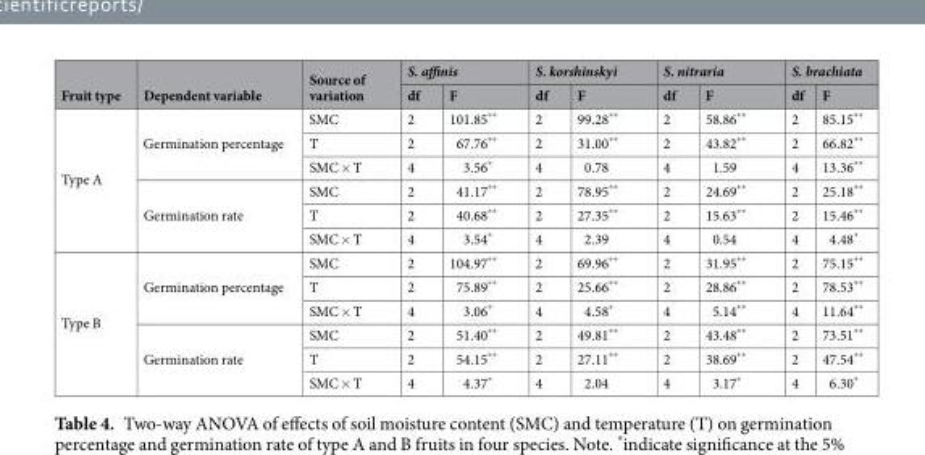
<table><thead><tr><td rowspan="2">Fruit type</td><td rowspan="2">Dependent variable</td><td rowspan="2">Source of variation</td><td colspan="2">S. affinis</td><td colspan="2">S. korshinskyi</td><td colspan="2">S. nitraria</td><td colspan="2">S. brachiata</td></tr><tr><td>df</td><td>F</td><td>df</td><td>F</td><td>df</td><td>F</td><td>df</td><td>F</td></tr></thead><tbody><tr><td rowspan="6">Type A</td><td rowspan="3">Germination percentage</td><td>SMC</td><td>2</td><td>101.85**</td><td>2</td><td>99.28**</td><td>2</td><td>58.86**</td><td>2</td><td>85.15**</td></tr><tr><td>T</td><td>2</td><td>67.76**</td><td>2</td><td>31.00**</td><td>2</td><td>43.82**</td><td>2</td><td>66.82**</td></tr><tr><td>SMC × T</td><td>4</td><td>3.56*</td><td>4</td><td>0.78</td><td>4</td><td>1.59</td><td>4</td><td>13.36**</td></tr><tr><td rowspan="3">Germination rate</td><td>SMC</td><td>2</td><td>41.17**</td><td>2</td><td>78.95**</td><td>2</td><td>24.69**</td><td>2</td><td>25.18**</td></tr><tr><td>T</td><td>2</td><td>40.68**</td><td>2</td><td>27.35**</td><td>2</td><td>15.63**</td><td>2</td><td>15.46**</td></tr><tr><td>SMC × T</td><td>4</td><td>3.54*</td><td>4</td><td>2.39</td><td>4</td><td>0.54</td><td>4</td><td>4.48*</td></tr><tr><td rowspan="6">Type B</td><td rowspan="3">Germination percentage</td><td>SMC</td><td>2</td><td>104.97**</td><td>2</td><td>69.96**</td><td>2</td><td>31.95**</td><td>2</td><td>75.15**</td></tr><tr><td>T</td><td>2</td><td>75.89**</td><td>2</td><td>25.66**</td><td>2</td><td>28.86**</td><td>2</td><td>78.53**</td></tr><tr><td>SMC × T</td><td>4</td><td>3.06*</td><td>4</td><td>4.58*</td><td>4</td><td>5.14**</td><td>4</td><td>11.64**</td></tr><tr><td rowspan="3">Germination rate</td><td>SMC</td><td>2</td><td>51.40**</td><td>2</td><td>49.81**</td><td>2</td><td>43.48**</td><td>2</td><td>73.51**</td></tr><tr><td>T</td><td>2</td><td>54.15**</td><td>2</td><td>27.11**</td><td>2</td><td>38.69**</td><td>2</td><td>47.54**</td></tr><tr><td>SMC × T</td><td>4</td><td>4.37*</td><td>4</td><td>2.04</td><td>4</td><td>3.17*</td><td>4</td><td>6.30*</td></tr></tbody></table>